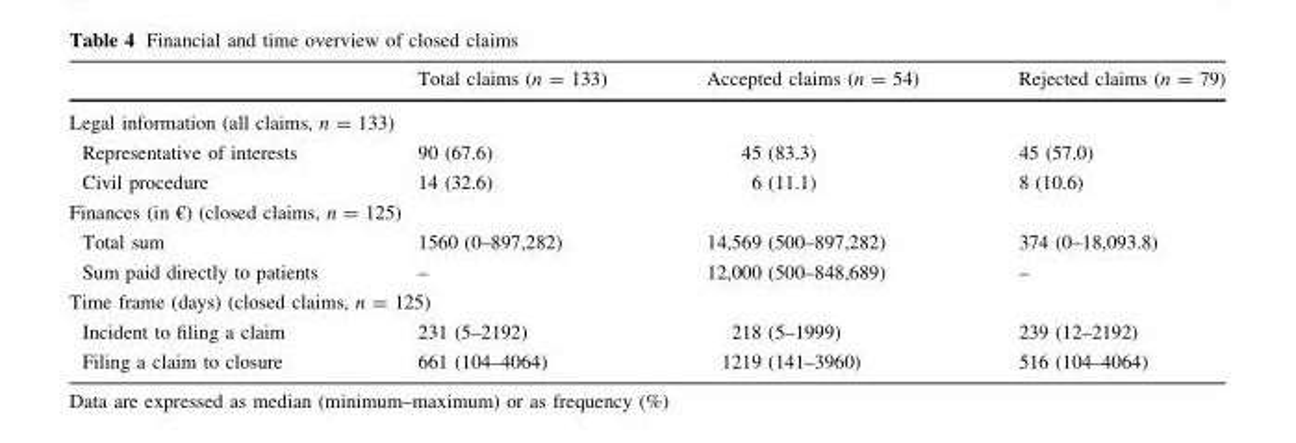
<table><thead><tr><td></td><td>Total claims (n = 133)</td><td>Accepted claims (n = 54)</td><td>Rejected claims (n = 79)</td></tr></thead><tbody><tr><td colspan="4">Legal information (all claims, n = 133)</td></tr><tr><td>Representative of interests</td><td>90 (67.6)</td><td>45 (83.3)</td><td>45 (57.0)</td></tr><tr><td>Civil procedure</td><td>14 (32.6)</td><td>6 (11.1)</td><td>8 (10.6)</td></tr><tr><td colspan="4">Finances (in €) (closed claims, n = 125)</td></tr><tr><td>Total sum</td><td>1560 (0–897,282)</td><td>14,569 (500–897,282)</td><td>374 (0–18,093.8)</td></tr><tr><td>Sum paid directly to patients</td><td>–</td><td>12,000 (500–848,689)</td><td>–</td></tr><tr><td colspan="4">Time frame (days) (closed claims, n = 125)</td></tr><tr><td>Incident to filing a claim</td><td>231 (5–2192)</td><td>218 (5–1999)</td><td>239 (12–2192)</td></tr><tr><td>Filing a claim to closure</td><td>661 (104–4064)</td><td>1219 (141–3960)</td><td>516 (104–4064)</td></tr></tbody></table>